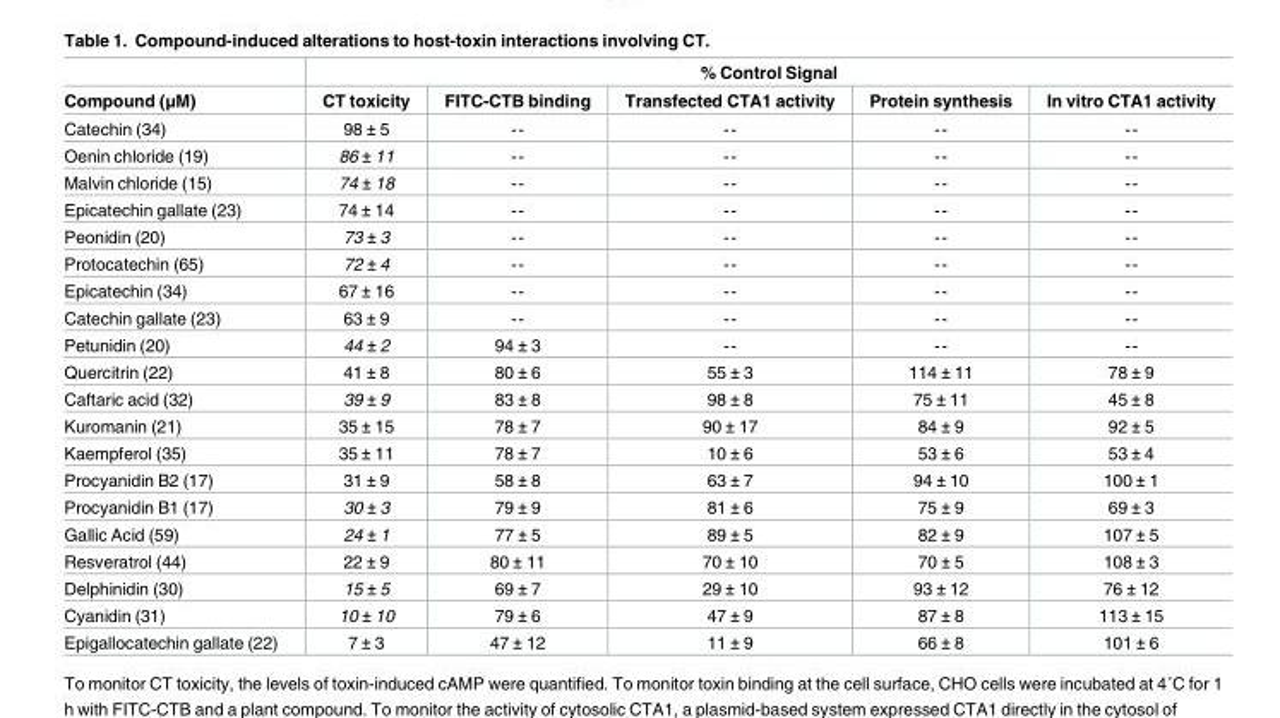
<table><thead><tr><td rowspan="2">Compound (μM)</td><td colspan="5">% Control Signal</td></tr><tr><td>CT toxicity</td><td>FITC-CTB binding</td><td>Transfected CTA1 activity</td><td>Protein synthesis</td><td>In vitro CTA1 activity</td></tr></thead><tbody><tr><td>Catechin (34)</td><td>98 ± 5</td><td>--</td><td>--</td><td>--</td><td>--</td></tr><tr><td>Oenin chloride (19)</td><td>86 ± 11</td><td>--</td><td>--</td><td>--</td><td>--</td></tr><tr><td>Malvin chloride (15)</td><td>74 ± 18</td><td>--</td><td>--</td><td>--</td><td>--</td></tr><tr><td>Epicatechin gallate (23)</td><td>74 ± 14</td><td>--</td><td>--</td><td>--</td><td>--</td></tr><tr><td>Peonidin (20)</td><td>73 ± 3</td><td>--</td><td>--</td><td>--</td><td>--</td></tr><tr><td>Protocatechin (65)</td><td>72 ± 4</td><td>--</td><td>--</td><td>--</td><td>--</td></tr><tr><td>Epicatechin (34)</td><td>67 ± 16</td><td>--</td><td>--</td><td>--</td><td>--</td></tr><tr><td>Catechin gallate (23)</td><td>63 ± 9</td><td>--</td><td>--</td><td>--</td><td>--</td></tr><tr><td>Petunidin (20)</td><td>44 ± 2</td><td>94 ± 3</td><td>--</td><td>--</td><td>--</td></tr><tr><td>Quercitrin (22)</td><td>41 ± 8</td><td>80 ± 6</td><td>55 ± 3</td><td>114 ± 11</td><td>78 ± 9</td></tr><tr><td>Caftaric acid (32)</td><td>39 ± 9</td><td>83 ± 8</td><td>98 ± 8</td><td>75 ± 11</td><td>45 ± 8</td></tr><tr><td>Kuromanin (21)</td><td>35 ± 15</td><td>78 ± 7</td><td>90 ± 17</td><td>84 ± 9</td><td>92 ± 5</td></tr><tr><td>Kaempferol (35)</td><td>35 ± 11</td><td>78 ± 7</td><td>10 ± 6</td><td>53 ± 6</td><td>53 ± 4</td></tr><tr><td>Procyanidin B2 (17)</td><td>31 ± 9</td><td>58 ± 8</td><td>63 ± 7</td><td>94 ± 10</td><td>100 ± 1</td></tr><tr><td>Procyanidin B1 (17)</td><td>30 ± 3</td><td>79 ± 9</td><td>81 ± 6</td><td>75 ± 9</td><td>69 ± 3</td></tr><tr><td>Gallic Acid (59)</td><td>24 ± 1</td><td>77 ± 5</td><td>89 ± 5</td><td>82 ± 9</td><td>107 ± 5</td></tr><tr><td>Resveratrol (44)</td><td>22 ± 9</td><td>80 ± 11</td><td>70 ± 10</td><td>70 ± 5</td><td>108 ± 3</td></tr><tr><td>Delphinidin (30)</td><td>15 ± 5</td><td>69 ± 7</td><td>29 ± 10</td><td>93 ± 12</td><td>76 ± 12</td></tr><tr><td>Cyanidin (31)</td><td>10 ± 10</td><td>79 ± 6</td><td>47 ± 9</td><td>87 ± 8</td><td>113 ± 15</td></tr><tr><td>Epigallocatechin gallate (22)</td><td>7 ± 3</td><td>47 ± 12</td><td>11 ± 9</td><td>66 ± 8</td><td>101 ± 6</td></tr></tbody></table>